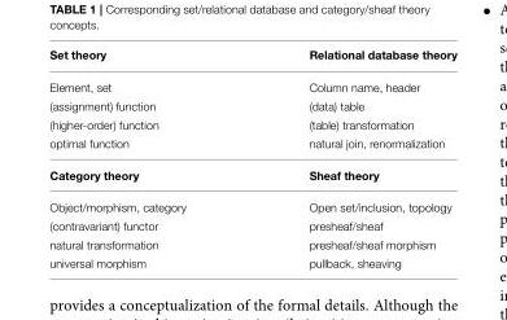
<table><thead><tr><td>Set theory</td><td>Relational database theory</td></tr></thead><tbody><tr><td>Element, set</td><td>Column name, header</td></tr><tr><td>(assignment) function</td><td>(data) table</td></tr><tr><td>(higher-order) function</td><td>(table) transformation</td></tr><tr><td>optimal function</td><td>natural join, renormalization</td></tr><tr><td>Category theory</td><td>Sheaf theory</td></tr><tr><td>Object/morphism, category</td><td>Open set/inclusion, topology</td></tr><tr><td>(contravariant) functor</td><td>presheaf/sheaf</td></tr><tr><td>natural transformation</td><td>presheaf/sheaf morphism</td></tr><tr><td>universal morphism</td><td>pullback, sheaving</td></tr></tbody></table>